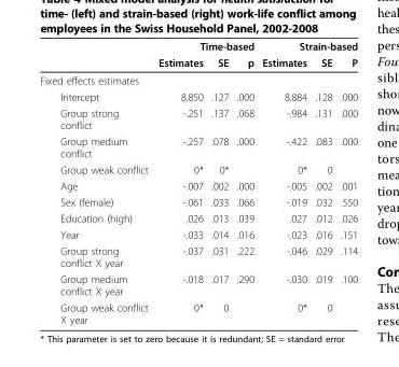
<table><thead><tr><td rowspan="2"></td><td colspan="3">Time-based</td><td colspan="3">Strain-based</td></tr><tr><td>Estimates</td><td>SE</td><td>p</td><td>Estimates</td><td>SE</td><td>P</td></tr></thead><tbody><tr><td colspan="7">Fixed effects estimates</td></tr><tr><td>Intercept</td><td>8.850</td><td>.127</td><td>.000</td><td>8.884</td><td>.128</td><td>.000</td></tr><tr><td>Group strong conflict</td><td>-.251</td><td>.137</td><td>.068</td><td>-.984</td><td>.131</td><td>.000</td></tr><tr><td>Group medium conflict</td><td>-.257</td><td>.078</td><td>.000</td><td>-.422</td><td>.083</td><td>.000</td></tr><tr><td>Group weak conflict</td><td>0*</td><td>0*</td><td></td><td>0*</td><td>0</td><td></td></tr><tr><td>Age</td><td>-.007</td><td>.002</td><td>.000</td><td>-.005</td><td>.002</td><td>.001</td></tr><tr><td>Sex (female)</td><td>-.061</td><td>.033</td><td>.066</td><td>-.019</td><td>.032</td><td>.550</td></tr><tr><td>Education (high)</td><td>.026</td><td>.013</td><td>.039</td><td>.027</td><td>.012</td><td>.026</td></tr><tr><td>Year</td><td>-.033</td><td>.014</td><td>.016</td><td>-.023</td><td>.016</td><td>.151</td></tr><tr><td>Group strong conflict X year</td><td>-.037</td><td>.031</td><td>.222</td><td>-.046</td><td>.029</td><td>.114</td></tr><tr><td>Group medium conflict X year</td><td>-.018</td><td>.017</td><td>.290</td><td>-.030</td><td>.019</td><td>.100</td></tr><tr><td>Group weak conflict X year</td><td>0*</td><td>0</td><td></td><td>0*</td><td>0</td><td></td></tr></tbody></table>